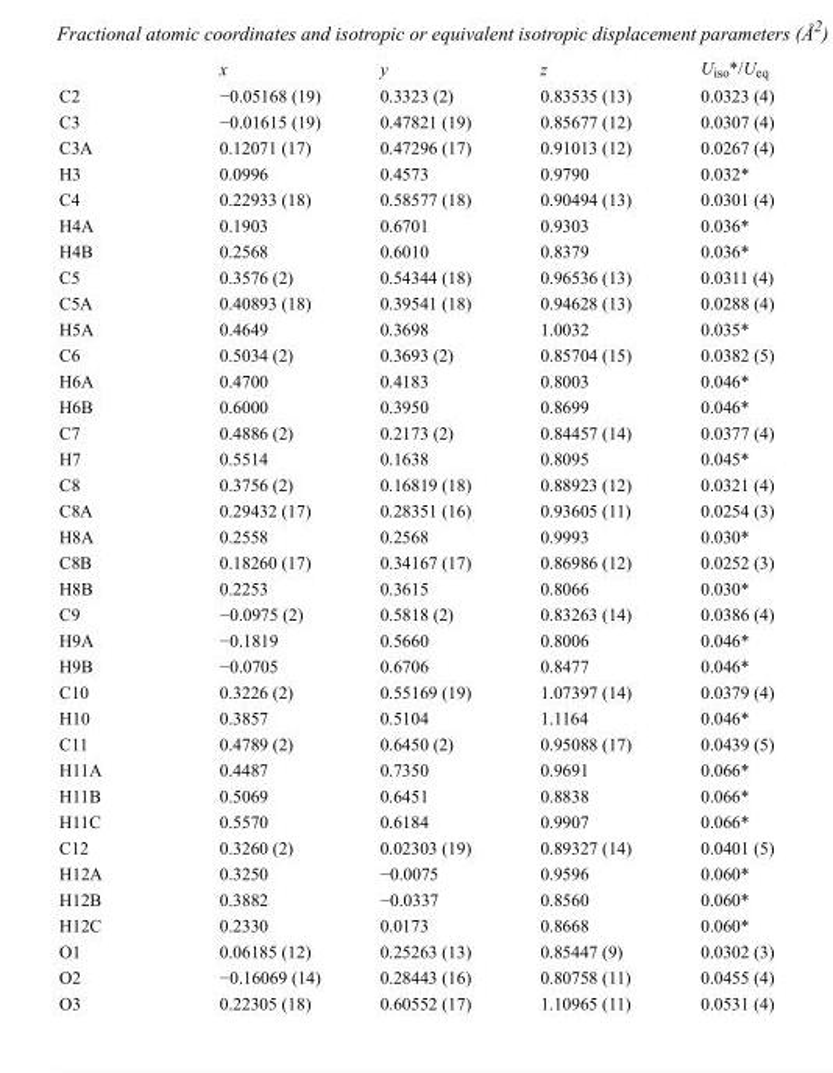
<table><thead><tr><td></td><td>x</td><td>y</td><td>z</td><td>U<sub>iso</sub>*/U<sub>eq</sub></td></tr></thead><tbody><tr><td>C2</td><td>−0.05168 (19)</td><td>0.3323 (2)</td><td>0.83535 (13)</td><td>0.0323 (4)</td></tr><tr><td>C3</td><td>−0.01615 (19)</td><td>0.47821 (19)</td><td>0.85677 (12)</td><td>0.0307 (4)</td></tr><tr><td>C3A</td><td>0.12071 (17)</td><td>0.47296 (17)</td><td>0.91013 (12)</td><td>0.0267 (4)</td></tr><tr><td>H3</td><td>0.0996</td><td>0.4573</td><td>0.9790</td><td>0.032*</td></tr><tr><td>C4</td><td>0.22933 (18)</td><td>0.58577 (18)</td><td>0.90494 (13)</td><td>0.0301 (4)</td></tr><tr><td>H4A</td><td>0.1903</td><td>0.6701</td><td>0.9303</td><td>0.036*</td></tr><tr><td>H4B</td><td>0.2568</td><td>0.6010</td><td>0.8379</td><td>0.036*</td></tr><tr><td>C5</td><td>0.3576 (2)</td><td>0.54344 (18)</td><td>0.96536 (13)</td><td>0.0311 (4)</td></tr><tr><td>C5A</td><td>0.40893 (18)</td><td>0.39541 (18)</td><td>0.94628 (13)</td><td>0.0288 (4)</td></tr><tr><td>H5A</td><td>0.4649</td><td>0.3698</td><td>1.0032</td><td>0.035*</td></tr><tr><td>C6</td><td>0.5034 (2)</td><td>0.3693 (2)</td><td>0.85704 (15)</td><td>0.0382 (5)</td></tr><tr><td>H6A</td><td>0.4700</td><td>0.4183</td><td>0.8003</td><td>0.046*</td></tr><tr><td>H6B</td><td>0.6000</td><td>0.3950</td><td>0.8699</td><td>0.046*</td></tr><tr><td>C7</td><td>0.4886 (2)</td><td>0.2173 (2)</td><td>0.84457 (14)</td><td>0.0377 (4)</td></tr><tr><td>H7</td><td>0.5514</td><td>0.1638</td><td>0.8095</td><td>0.045*</td></tr><tr><td>C8</td><td>0.3756 (2)</td><td>0.16819 (18)</td><td>0.88923 (12)</td><td>0.0321 (4)</td></tr><tr><td>C8A</td><td>0.29432 (17)</td><td>0.28351 (16)</td><td>0.93605 (11)</td><td>0.0254 (3)</td></tr><tr><td>H8A</td><td>0.2558</td><td>0.2568</td><td>0.9993</td><td>0.030*</td></tr><tr><td>C8B</td><td>0.18260 (17)</td><td>0.34167 (17)</td><td>0.86986 (12)</td><td>0.0252 (3)</td></tr><tr><td>H8B</td><td>0.2253</td><td>0.3615</td><td>0.8066</td><td>0.030*</td></tr><tr><td>C9</td><td>−0.0975 (2)</td><td>0.5818 (2)</td><td>0.83263 (14)</td><td>0.0386 (4)</td></tr><tr><td>H9A</td><td>−0.1819</td><td>0.5660</td><td>0.8006</td><td>0.046*</td></tr><tr><td>H9B</td><td>−0.0705</td><td>0.6706</td><td>0.8477</td><td>0.046*</td></tr><tr><td>C10</td><td>0.3226 (2)</td><td>0.55169 (19)</td><td>1.07397 (14)</td><td>0.0379 (4)</td></tr><tr><td>H10</td><td>0.3857</td><td>0.5104</td><td>1.1164</td><td>0.046*</td></tr><tr><td>C11</td><td>0.4789 (2)</td><td>0.6450 (2)</td><td>0.95088 (17)</td><td>0.0439 (5)</td></tr><tr><td>H11A</td><td>0.4487</td><td>0.7350</td><td>0.9691</td><td>0.066*</td></tr><tr><td>H11B</td><td>0.5069</td><td>0.6451</td><td>0.8838</td><td>0.066*</td></tr><tr><td>H11C</td><td>0.5570</td><td>0.6184</td><td>0.9907</td><td>0.066*</td></tr><tr><td>C12</td><td>0.3260 (2)</td><td>0.02303 (19)</td><td>0.89327 (14)</td><td>0.0401 (5)</td></tr><tr><td>H12A</td><td>0.3250</td><td>−0.0075</td><td>0.9596</td><td>0.060*</td></tr><tr><td>H12B</td><td>0.3882</td><td>−0.0337</td><td>0.8560</td><td>0.060*</td></tr><tr><td>H12C</td><td>0.2330</td><td>0.0173</td><td>0.8668</td><td>0.060*</td></tr><tr><td>O1</td><td>0.06185 (12)</td><td>0.25263 (13)</td><td>0.85447 (9)</td><td>0.0302 (3)</td></tr><tr><td>O2</td><td>−0.16069 (14)</td><td>0.28443 (16)</td><td>0.80758 (11)</td><td>0.0455 (4)</td></tr><tr><td>O3</td><td>0.22305 (18)</td><td>0.60552 (17)</td><td>1.10965 (11)</td><td>0.0531 (4)</td></tr></tbody></table>